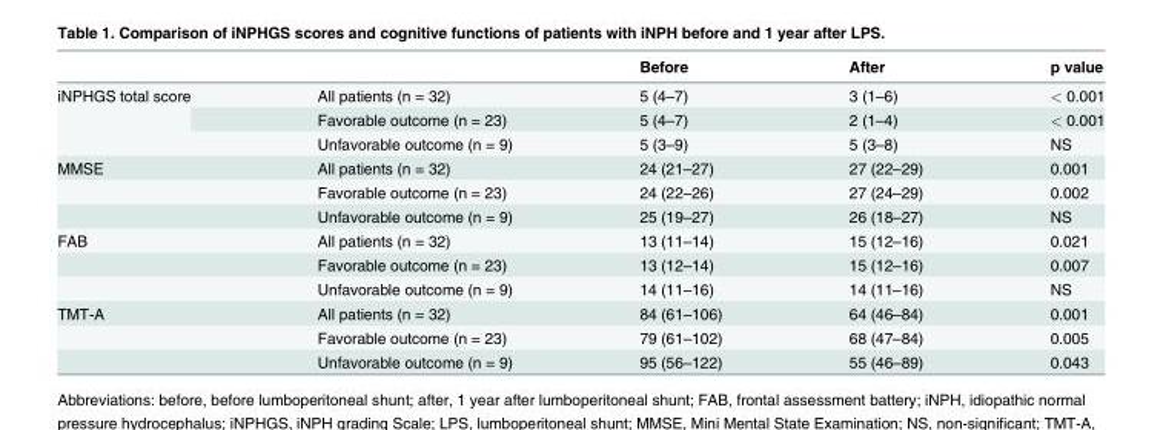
<table><thead><tr><td></td><td></td><td>Before</td><td>After</td><td>p value</td></tr></thead><tbody><tr><td rowspan="3">iNPHGS total score</td><td>All patients (n = 32)</td><td>5 (4–7)</td><td>3 (1–6)</td><td>&lt; 0.001</td></tr><tr><td>Favorable outcome (n = 23)</td><td>5 (4–7)</td><td>2 (1–4)</td><td>&lt; 0.001</td></tr><tr><td>Unfavorable outcome (n = 9)</td><td>5 (3–9)</td><td>5 (3–8)</td><td>NS</td></tr><tr><td rowspan="3">MMSE</td><td>All patients (n = 32)</td><td>24 (21–27)</td><td>27 (22–29)</td><td>0.001</td></tr><tr><td>Favorable outcome (n = 23)</td><td>24 (22–26)</td><td>27 (24–29)</td><td>0.002</td></tr><tr><td>Unfavorable outcome (n = 9)</td><td>25 (19–27)</td><td>26 (18–27)</td><td>NS</td></tr><tr><td rowspan="3">FAB</td><td>All patients (n = 32)</td><td>13 (11–14)</td><td>15 (12–16)</td><td>0.021</td></tr><tr><td>Favorable outcome (n = 23)</td><td>13 (12–14)</td><td>15 (12–16)</td><td>0.007</td></tr><tr><td>Unfavorable outcome (n = 9)</td><td>14 (11–16)</td><td>14 (11–16)</td><td>NS</td></tr><tr><td rowspan="3">TMT-A</td><td>All patients (n = 32)</td><td>84 (61–106)</td><td>64 (46–84)</td><td>0.001</td></tr><tr><td>Favorable outcome (n = 23)</td><td>79 (61–102)</td><td>68 (47–84)</td><td>0.005</td></tr><tr><td>Unfavorable outcome (n = 9)</td><td>95 (56–122)</td><td>55 (46–89)</td><td>0.043</td></tr></tbody></table>